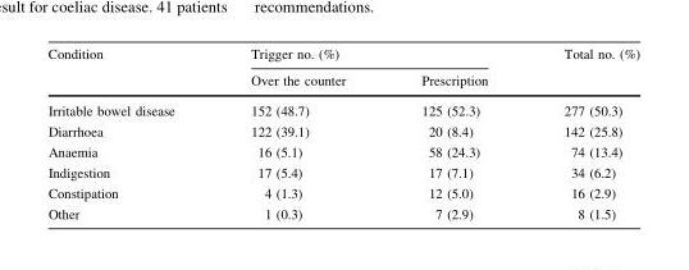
<table><thead><tr><td rowspan="2">Condition</td><td colspan="2">Trigger no. (%)</td><td rowspan="2">Total no. (%)</td></tr><tr><td>Over the counter</td><td>Prescription</td></tr></thead><tbody><tr><td>Irritable bowel disease</td><td>152 (48.7)</td><td>125 (52.3)</td><td>277 (50.3)</td></tr><tr><td>Diarrhoea</td><td>122 (39.1)</td><td>20 (8.4)</td><td>142 (25.8)</td></tr><tr><td>Anaemia</td><td>16 (5.1)</td><td>58 (24.3)</td><td>74 (13.4)</td></tr><tr><td>Indigestion</td><td>17 (5.4)</td><td>17 (7.1)</td><td>34 (6.2)</td></tr><tr><td>Constipation</td><td>4 (1.3)</td><td>12 (5.0)</td><td>16 (2.9)</td></tr><tr><td>Other</td><td>1 (0.3)</td><td>7 (2.9)</td><td>8 (1.5)</td></tr></tbody></table>